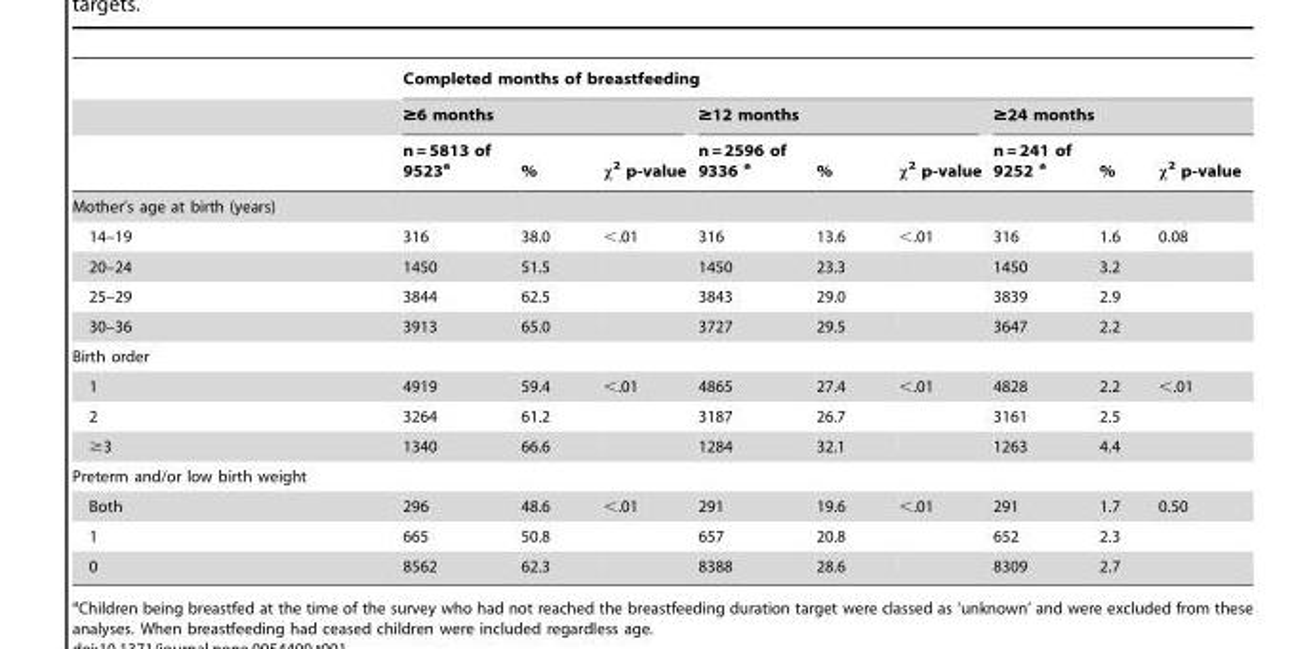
<table><thead><tr><td rowspan="3"></td><td colspan="9">Completed months of breastfeeding</td></tr><tr><td colspan="3">≥6 months</td><td colspan="3">≥12 months</td><td colspan="3">≥24 months</td></tr><tr><td>n = 5813 of 9523<sup>a</sup></td><td>%</td><td>x2 p-value</td><td>n = 2596 of 9336 a</td><td>%</td><td>x2 p-value</td><td>n = 241 of 9252 a</td><td>%</td><td>x2 p-value</td></tr></thead><tbody><tr><td colspan="10">Mother’s age at birth (years)</td></tr><tr><td>14–19</td><td>316</td><td>38.0</td><td>&lt;.01</td><td>316</td><td>13.6</td><td>&lt;.01</td><td>316</td><td>1.6</td><td>0.08</td></tr><tr><td>20–24</td><td>1450</td><td>51.5</td><td></td><td>1450</td><td>23.3</td><td></td><td>1450</td><td>3.2</td><td></td></tr><tr><td>25–29</td><td>3844</td><td>62.5</td><td></td><td>3843</td><td>29.0</td><td></td><td>3839</td><td>2.9</td><td></td></tr><tr><td>30–36</td><td>3913</td><td>65.0</td><td></td><td>3727</td><td>29.5</td><td></td><td>3647</td><td>2.2</td><td></td></tr><tr><td colspan="10">Birth order</td></tr><tr><td>1</td><td>4919</td><td>59.4</td><td>&lt;.01</td><td>4865</td><td>27.4</td><td>&lt;.01</td><td>4828</td><td>2.2</td><td>&lt;.01</td></tr><tr><td>2</td><td>3264</td><td>61.2</td><td></td><td>3187</td><td>26.7</td><td></td><td>3161</td><td>2.5</td><td></td></tr><tr><td>≥3</td><td>1340</td><td>66.6</td><td></td><td>1284</td><td>32.1</td><td></td><td>1263</td><td>4.4</td><td></td></tr><tr><td colspan="10">Preterm and/or low birth weight</td></tr><tr><td>Both</td><td>296</td><td>48.6</td><td>&lt;.01</td><td>291</td><td>19.6</td><td>&lt;.01</td><td>291</td><td>1.7</td><td>0.50</td></tr><tr><td>1</td><td>665</td><td>50.8</td><td></td><td>657</td><td>20.8</td><td></td><td>652</td><td>2.3</td><td></td></tr><tr><td>0</td><td>8562</td><td>62.3</td><td></td><td>8388</td><td>28.6</td><td></td><td>8309</td><td>2.7</td><td></td></tr></tbody></table>